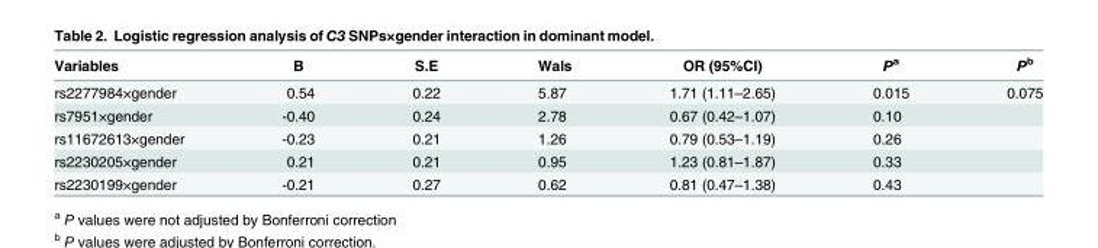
<table><thead><tr><td>Variables</td><td>B</td><td>S.E</td><td>Wals</td><td>OR (95%CI)</td><td>P<sup>a</sup></td><td>P<sup>b</sup></td></tr></thead><tbody><tr><td>rs2277984×gender</td><td>0.54</td><td>0.22</td><td>5.87</td><td>1.71 (1.11–2.65)</td><td>0.015</td><td>0.075</td></tr><tr><td>rs7951×gender</td><td>-0.40</td><td>0.24</td><td>2.78</td><td>0.67 (0.42–1.07)</td><td>0.10</td><td></td></tr><tr><td>rs11672613×gender</td><td>-0.23</td><td>0.21</td><td>1.26</td><td>0.79 (0.53–1.19)</td><td>0.26</td><td></td></tr><tr><td>rs2230205×gender</td><td>0.21</td><td>0.21</td><td>0.95</td><td>1.23 (0.81–1.87)</td><td>0.33</td><td></td></tr><tr><td>rs2230199×gender</td><td>-0.21</td><td>0.27</td><td>0.62</td><td>0.81 (0.47–1.38)</td><td>0.43</td><td></td></tr></tbody></table>